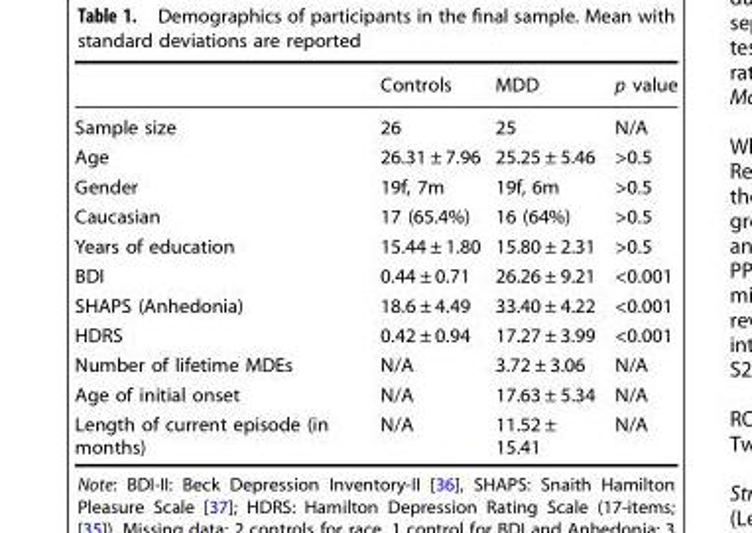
<table><thead><tr><td></td><td>Controls</td><td>MDD</td><td>p value</td></tr></thead><tbody><tr><td>Sample size</td><td>26</td><td>25</td><td>N/A</td></tr><tr><td>Age</td><td>26.31 ± 7.96</td><td>25.25 ± 5.46</td><td>&gt;0.5</td></tr><tr><td>Gender</td><td>19f, 7m</td><td>19f, 6m</td><td>&gt;0.5</td></tr><tr><td>Caucasian</td><td>17 (65.4%)</td><td>16 (64%)</td><td>&gt;0.5</td></tr><tr><td>Years of education</td><td>15.44 ± 1.80</td><td>15.80 ± 2.31</td><td>&gt;0.5</td></tr><tr><td>BDI</td><td>0.44 ± 0.71</td><td>26.26 ± 9.21</td><td>&lt;0.001</td></tr><tr><td>SHAPS (Anhedonia)</td><td>18.6 ± 4.49</td><td>33.40 ± 4.22</td><td>&lt;0.001</td></tr><tr><td>HDRS</td><td>0.42 ± 0.94</td><td>17.27 ± 3.99</td><td>&lt;0.001</td></tr><tr><td>Number of lifetime MDEs</td><td>N/A</td><td>3.72 ± 3.06</td><td>N/A</td></tr><tr><td>Age of initial onset</td><td>N/A</td><td>17.63 ± 5.34</td><td>N/A</td></tr><tr><td>Length of current episode (in months)</td><td>N/A</td><td>11.52 ± 15.41</td><td>N/A</td></tr></tbody></table>